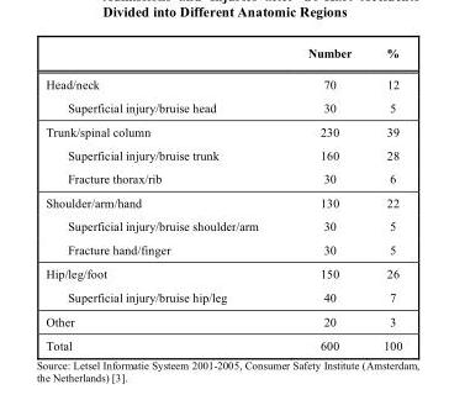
<table><thead><tr><td></td><td>Number</td><td>%</td></tr></thead><tbody><tr><td>Head/neck</td><td>70</td><td>12</td></tr><tr><td>Superficial injury/bruise head</td><td>30</td><td>5</td></tr><tr><td>Trunk/spinal column</td><td>230</td><td>39</td></tr><tr><td>Superficial injury/bruise trunk</td><td>160</td><td>28</td></tr><tr><td>Fracture thorax/rib</td><td>30</td><td>6</td></tr><tr><td>Shoulder/arm/hand</td><td>130</td><td>22</td></tr><tr><td>Superficial injury/bruise shoulder/arm</td><td>30</td><td>5</td></tr><tr><td>Fracture hand/finger</td><td>30</td><td>5</td></tr><tr><td>Hip/leg/foot</td><td>150</td><td>26</td></tr><tr><td>Superficial injury/bruise hip/leg</td><td>40</td><td>7</td></tr><tr><td>Other</td><td>20</td><td>3</td></tr><tr><td>Total</td><td>600</td><td>100</td></tr></tbody></table>